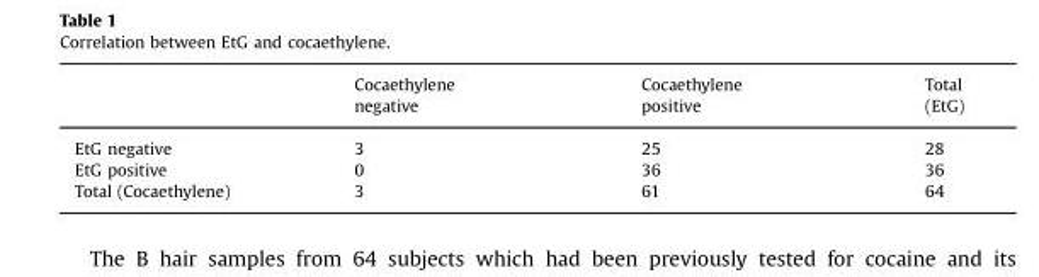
<table><thead><tr><td></td><td>Cocaethylene negative</td><td>Cocaethylene positive</td><td>Total (EtG)</td></tr></thead><tbody><tr><td>EtG negative</td><td>3</td><td>25</td><td>28</td></tr><tr><td>EtG positive</td><td>0</td><td>36</td><td>36</td></tr><tr><td>Total (Cocaethylene)</td><td>3</td><td>61</td><td>64</td></tr></tbody></table>